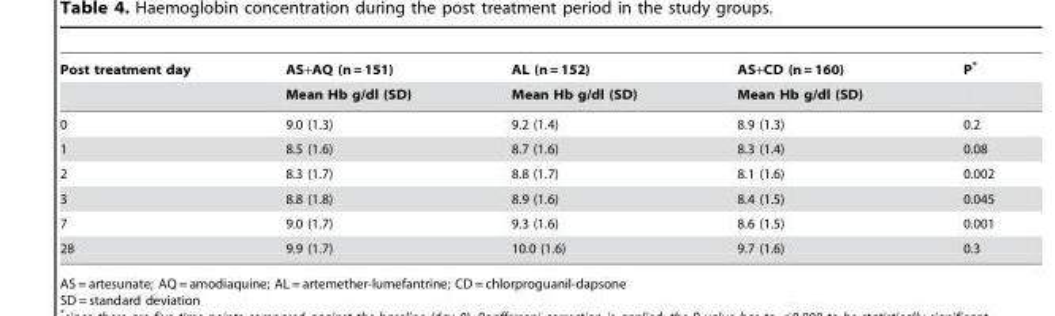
<table><thead><tr><td rowspan="2">Post treatment day</td><td rowspan="2">AS+AQ (n = 151) Mean Hb g/dl (SD)</td><td rowspan="2">AL (n = 152) Mean Hb g/dl (SD)</td><td rowspan="2">AS+CD (n = 160) Mean Hb g/dl (SD)</td><td rowspan="2">P*</td></tr><tr></tr></thead><tbody><tr><td>0</td><td>9.0 (1.3)</td><td>9.2 (1.4)</td><td>8.9 (1.3)</td><td>0.2</td></tr><tr><td>1</td><td>8.5 (1.6)</td><td>8.7 (1.6)</td><td>8.3 (1.4)</td><td>0.08</td></tr><tr><td>2</td><td>8.3 (1.7)</td><td>8.8 (1.7)</td><td>8.1 (1.6)</td><td>0.002</td></tr><tr><td>3</td><td>8.8 (1.8)</td><td>8.9 (1.6)</td><td>8.4 (1.5)</td><td>0.045</td></tr><tr><td>7</td><td>9.0 (1.7)</td><td>9.3 (1.6)</td><td>8.6 (1.5)</td><td>0.001</td></tr><tr><td>28</td><td>9.9 (1.7)</td><td>10.0 (1.6)</td><td>9.7 (1.6)</td><td>0.3</td></tr></tbody></table>